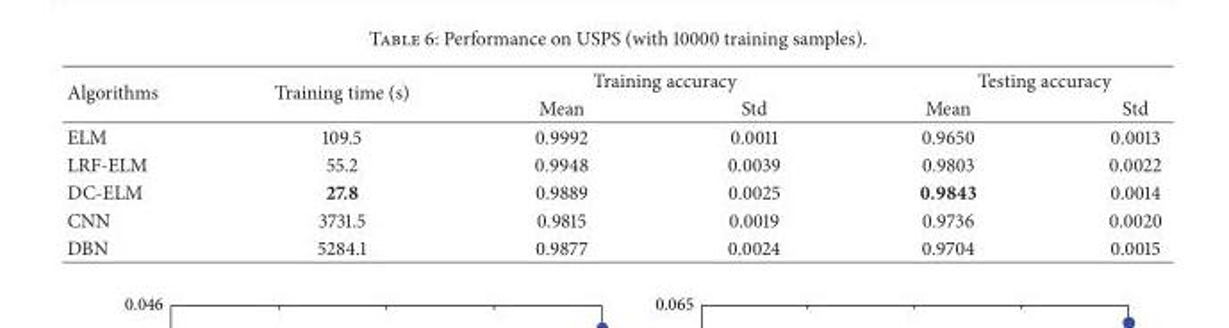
<table><thead><tr><td rowspan="2">Algorithms</td><td rowspan="2">Training time (s)</td><td colspan="2">Training accuracy</td><td colspan="2">Testing accuracy</td></tr><tr><td>Mean</td><td>Std</td><td>Mean</td><td>Std</td></tr></thead><tbody><tr><td>ELM</td><td>109.5</td><td>0.9992</td><td>0.0011</td><td>0.9650</td><td>0.0013</td></tr><tr><td>LRF-ELM</td><td>55.2</td><td>0.9948</td><td>0.0039</td><td>0.9803</td><td>0.0022</td></tr><tr><td>DC-ELM</td><td>27.8</td><td>0.9889</td><td>0.0025</td><td>0.9843</td><td>0.0014</td></tr><tr><td>CNN</td><td>3731.5</td><td>0.9815</td><td>0.0019</td><td>0.9736</td><td>0.0020</td></tr><tr><td>DBN</td><td>5284.1</td><td>0.9877</td><td>0.0024</td><td>0.9704</td><td>0.0015</td></tr></tbody></table>